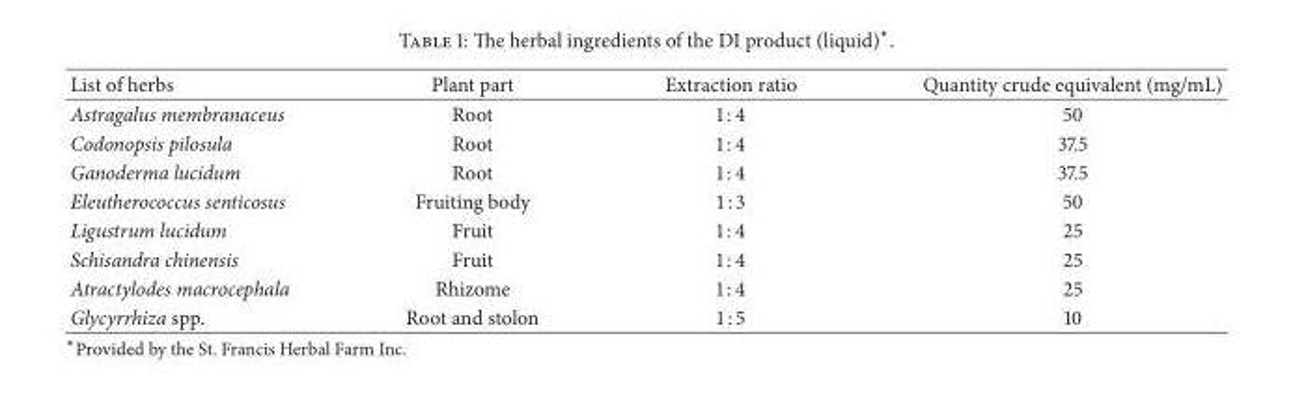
<table><thead><tr><td>List of herbs</td><td>Plant part</td><td>Extraction ratio</td><td>Quantity crude equivalent (mg/mL)</td></tr></thead><tbody><tr><td>Astragalus membranaceus</td><td>Root</td><td>1 : 4</td><td>50</td></tr><tr><td>Codonopsis pilosula</td><td>Root</td><td>1 : 4</td><td>37.5</td></tr><tr><td>Ganoderma lucidum</td><td>Root</td><td>1 : 4</td><td>37.5</td></tr><tr><td>Eleutherococcus senticosus</td><td>Fruiting body</td><td>1 : 3</td><td>50</td></tr><tr><td>Ligustrum lucidum</td><td>Fruit</td><td>1 : 4</td><td>25</td></tr><tr><td>Schisandra chinensis</td><td>Fruit</td><td>1 : 4</td><td>25</td></tr><tr><td>Atractylodes macrocephala</td><td>Rhizome</td><td>1 : 4</td><td>25</td></tr><tr><td>Glycyrrhiza spp.</td><td>Root and stolon</td><td>1 : 5</td><td>10</td></tr></tbody></table>